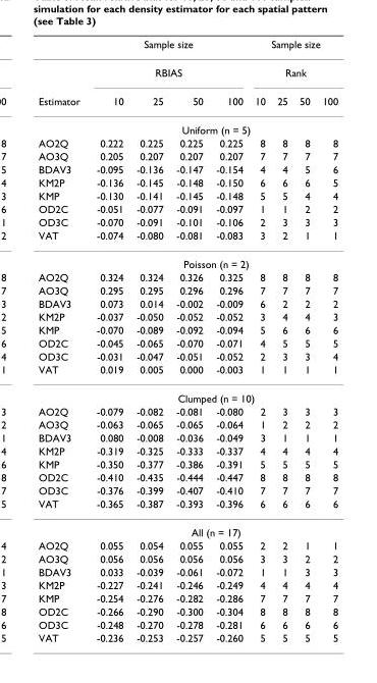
<table><thead><tr><td rowspan="3">Estimator</td><td rowspan="2" colspan="4">Sample size RBIAS</td><td rowspan="2" colspan="4">Sample size Rank</td></tr><tr></tr><tr><td>10</td><td>25</td><td>50</td><td>100</td><td>10</td><td>25</td><td>50</td><td>100</td></tr></thead><tbody><tr><td></td><td colspan="8">Uniform (n = 5)</td></tr><tr><td>AO2Q</td><td>0.222</td><td>0.225</td><td>0.225</td><td>0.225</td><td>8</td><td>8</td><td>8</td><td>8</td></tr><tr><td>AO3Q</td><td>0.205</td><td>0.207</td><td>0.207</td><td>0.207</td><td>7</td><td>7</td><td>7</td><td>7</td></tr><tr><td>BDAV3</td><td>-0.095</td><td>-0.136</td><td>-0.147</td><td>-0.154</td><td>4</td><td>4</td><td>5</td><td>6</td></tr><tr><td>KM2P</td><td>-0.136</td><td>-0.145</td><td>-0.148</td><td>-0.150</td><td>6</td><td>6</td><td>6</td><td>5</td></tr><tr><td>KMP</td><td>-0.130</td><td>-0.141</td><td>-0.145</td><td>-0.148</td><td>5</td><td>5</td><td>4</td><td>4</td></tr><tr><td>OD2C</td><td>-0.051</td><td>-0.077</td><td>-0.091</td><td>-0.097</td><td>1</td><td>1</td><td>2</td><td>2</td></tr><tr><td>OD3C</td><td>-0.070</td><td>-0.091</td><td>-0.101</td><td>-0.106</td><td>2</td><td>3</td><td>3</td><td>3</td></tr><tr><td rowspan="2">VAT</td><td>-0.074</td><td>-0.080</td><td>-0.081</td><td>-0.083</td><td>3</td><td>2</td><td>1</td><td>1</td></tr><tr><td colspan="8">Poisson (n = 2)</td></tr><tr><td>AO2Q</td><td>0.324</td><td>0.324</td><td>0.326</td><td>0.325</td><td>8</td><td>8</td><td>8</td><td>8</td></tr><tr><td>AO3Q</td><td>0.295</td><td>0.295</td><td>0.296</td><td>0.296</td><td>7</td><td>7</td><td>7</td><td>7</td></tr><tr><td>BDAV3</td><td>0.073</td><td>0.014</td><td>-0.002</td><td>-0.009</td><td>6</td><td>2</td><td>2</td><td>2</td></tr><tr><td>KM2P</td><td>-0.037</td><td>-0.050</td><td>-0.052</td><td>-0.052</td><td>3</td><td>4</td><td>4</td><td>3</td></tr><tr><td>KMP</td><td>-0.070</td><td>-0.089</td><td>-0.092</td><td>-0.094</td><td>5</td><td>6</td><td>6</td><td>6</td></tr><tr><td>OD2C</td><td>-0.045</td><td>-0.065</td><td>-0.070</td><td>-0.071</td><td>4</td><td>5</td><td>5</td><td>5</td></tr><tr><td>OD3C</td><td>-0.031</td><td>-0.047</td><td>-0.051</td><td>-0.052</td><td>2</td><td>3</td><td>3</td><td>4</td></tr><tr><td rowspan="2">VAT</td><td>0.019</td><td>0.005</td><td>0.000</td><td>-0.003</td><td>1</td><td>1</td><td>1</td><td>1</td></tr><tr><td colspan="8">Clumped (n = 10)</td></tr><tr><td>AO2Q</td><td>-0.079</td><td>-0.082</td><td>-0.081</td><td>-0.080</td><td>2</td><td>3</td><td>3</td><td>3</td></tr><tr><td>AO3Q</td><td>-0.063</td><td>-0.065</td><td>-0.065</td><td>-0.064</td><td>1</td><td>2</td><td>2</td><td>2</td></tr><tr><td>BDAV3</td><td>0.080</td><td>-0.008</td><td>-0.036</td><td>-0.049</td><td>3</td><td>1</td><td>1</td><td>1</td></tr><tr><td>KM2P</td><td>-0.319</td><td>-0.325</td><td>-0.333</td><td>-0.337</td><td>4</td><td>4</td><td>4</td><td>4</td></tr><tr><td>KMP</td><td>-0.350</td><td>-0.377</td><td>-0.386</td><td>-0.391</td><td>5</td><td>5</td><td>5</td><td>5</td></tr><tr><td>OD2C</td><td>-0.410</td><td>-0.435</td><td>-0.444</td><td>-0.447</td><td>8</td><td>8</td><td>8</td><td>8</td></tr><tr><td>OD3C</td><td>-0.376</td><td>-0.399</td><td>-0.407</td><td>-0.410</td><td>7</td><td>7</td><td>7</td><td>7</td></tr><tr><td rowspan="2">VAT</td><td>-0.365</td><td>-0.387</td><td>-0.393</td><td>-0.396</td><td>6</td><td>6</td><td>6</td><td>6</td></tr><tr><td colspan="8">All (n = 17)</td></tr><tr><td>AO2Q</td><td>0.055</td><td>0.054</td><td>0.055</td><td>0.055</td><td>2</td><td>2</td><td>1</td><td>1</td></tr><tr><td>AO3Q</td><td>0.056</td><td>0.056</td><td>0.056</td><td>0.056</td><td>3</td><td>3</td><td>2</td><td>2</td></tr><tr><td>BDAV3</td><td>0.033</td><td>-0.039</td><td>-0.061</td><td>-0.072</td><td>1</td><td>1</td><td>3</td><td>3</td></tr><tr><td>KM2P</td><td>-0.227</td><td>-0.241</td><td>-0.246</td><td>-0.249</td><td>4</td><td>4</td><td>4</td><td>4</td></tr><tr><td>KMP</td><td>-0.254</td><td>-0.276</td><td>-0.282</td><td>-0.286</td><td>7</td><td>7</td><td>7</td><td>7</td></tr><tr><td>OD2C</td><td>-0.266</td><td>-0.290</td><td>-0.300</td><td>-0.304</td><td>8</td><td>8</td><td>8</td><td>8</td></tr><tr><td>OD3C</td><td>-0.248</td><td>-0.270</td><td>-0.278</td><td>-0.281</td><td>6</td><td>6</td><td>6</td><td>6</td></tr><tr><td>VAT</td><td>-0.236</td><td>-0.253</td><td>-0.257</td><td>-0.260</td><td>5</td><td>5</td><td>5</td><td>5</td></tr></tbody></table>